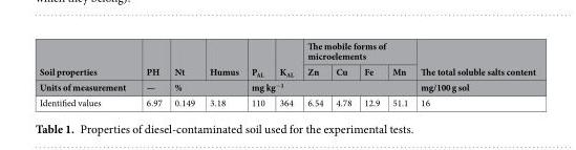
<table><thead><tr><td rowspan="3">Soil properties Units of measurement</td><td rowspan="3">PH —</td><td rowspan="2">Nt</td><td rowspan="2">Humus</td><td rowspan="2">P<sub>AL</sub></td><td rowspan="2">K<sub>AL</sub></td><td colspan="4">The mobile forms of microelements</td><td rowspan="3">The total soluble salts content mg/100 g sol</td></tr><tr><td>Zn</td><td>Cu</td><td>Fe</td><td>Mn</td></tr><tr><td colspan="2">%</td><td colspan="6">mg kg<sup>−1</sup></td></tr></thead><tbody><tr><td>Identified values</td><td>6.97</td><td>0.149</td><td>3.18</td><td>110</td><td>364</td><td>6.54</td><td>4.78</td><td>12.9</td><td>51.1</td><td>16</td></tr></tbody></table>